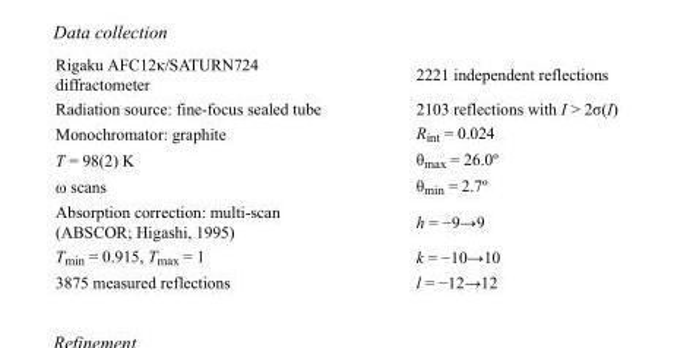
<table><tbody><tr><td>Rigaku AFC12κ/SATURN724 diffractometer</td><td>2221 independent reflections</td></tr><tr><td>Radiation source: fine-focus sealed tube</td><td>2103 reflections with I &gt; 2σ(I)</td></tr><tr><td>Monochromator: graphite</td><td>R<sub>int</sub> = 0.024</td></tr><tr><td>T = 98(2) K</td><td>θ<sub>max</sub> = 26.0º</td></tr><tr><td>ω scans</td><td>θ<sub>min</sub> = 2.7º</td></tr><tr><td>Absorption correction: multi-scan (ABSCOR; Higashi, 1995)</td><td>h = −9→9</td></tr><tr><td>T<sub>min</sub> = 0.915, T<sub>max</sub> = 1</td><td>k = −10→10</td></tr><tr><td>3875 measured reflections</td><td>l = −12→12</td></tr></tbody></table>